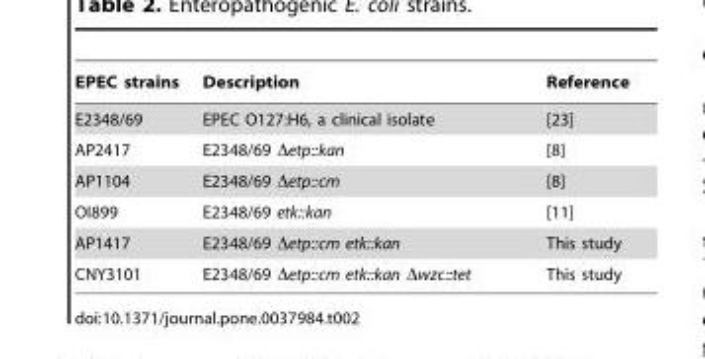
<table><thead><tr><td>EPEC strains</td><td>Description</td><td>Reference</td></tr></thead><tbody><tr><td>E2348/69</td><td>EPEC O127:H6, a clinical isolate</td><td>[23]</td></tr><tr><td>AP2417</td><td>E2348/69 Δetp::kan</td><td>[8]</td></tr><tr><td>AP1104</td><td>E2348/69 Δetp::cm</td><td>[8]</td></tr><tr><td>OI899</td><td>E2348/69 etk::kan</td><td>[11]</td></tr><tr><td>AP1417</td><td>E2348/69 Δetp::cm etk::kan</td><td>This study</td></tr><tr><td>CNY3101</td><td>E2348/69 Δetp::cm etk::kan Δwzc::tet</td><td>This study</td></tr></tbody></table>